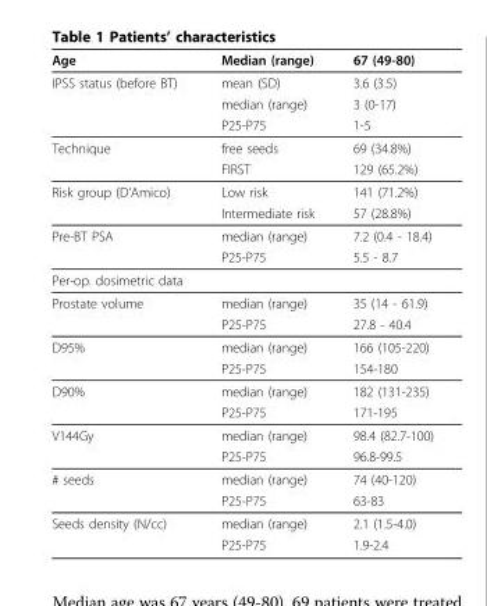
<table><thead><tr><td>Age</td><td>Median (range)</td><td>67 (49-80)</td></tr></thead><tbody><tr><td rowspan="3">IPSS status (before BT)</td><td>mean (SD)</td><td>3.6 (3.5)</td></tr><tr><td>median (range)</td><td>3 (0-17)</td></tr><tr><td>P25-P75</td><td>1-5</td></tr><tr><td rowspan="2">Technique</td><td>free seeds</td><td>69 (34.8%)</td></tr><tr><td>FIRST</td><td>129 (65.2%)</td></tr><tr><td rowspan="2">Risk group (D’Amico)</td><td>Low risk</td><td>141 (71.2%)</td></tr><tr><td>Intermediate risk</td><td>57 (28.8%)</td></tr><tr><td rowspan="2">Pre-BT PSA</td><td>median (range)</td><td>7.2 (0.4 - 18.4)</td></tr><tr><td>P25-P75</td><td>5.5 - 8.7</td></tr><tr><td colspan="3">Per-op. dosimetric data</td></tr><tr><td rowspan="2">Prostate volume</td><td>median (range)</td><td>35 (14 - 61.9)</td></tr><tr><td>P25-P75</td><td>27.8 - 40.4</td></tr><tr><td rowspan="2">D95%</td><td>median (range)</td><td>166 (105-220)</td></tr><tr><td>P25-P75</td><td>154-180</td></tr><tr><td rowspan="2">D90%</td><td>median (range)</td><td>182 (131-235)</td></tr><tr><td>P25-P75</td><td>171-195</td></tr><tr><td rowspan="2">V144Gy</td><td>median (range)</td><td>98.4 (82.7-100)</td></tr><tr><td>P25-P75</td><td>96.8-99.5</td></tr><tr><td rowspan="2"># seeds</td><td>median (range)</td><td>74 (40-120)</td></tr><tr><td>P25-P75</td><td>63-83</td></tr><tr><td rowspan="2">Seeds density (N/cc)</td><td>median (range)</td><td>2.1 (1.5-4.0)</td></tr><tr><td>P25-P75</td><td>1.9-2.4</td></tr></tbody></table>